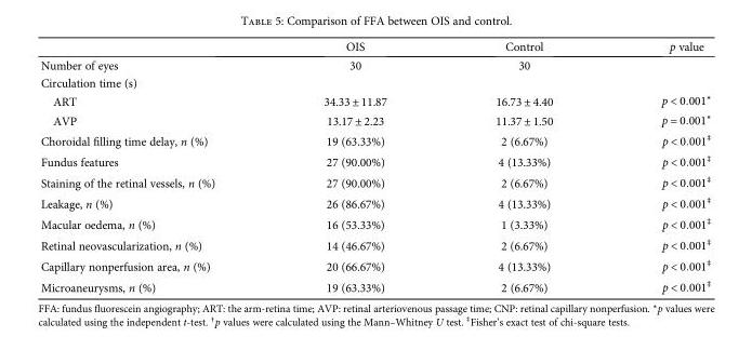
<table><thead><tr><td></td><td>OIS</td><td>Control</td><td>p value</td></tr></thead><tbody><tr><td>Number of eyes</td><td>30</td><td>30</td><td></td></tr><tr><td colspan="4">Circulation time (s)</td></tr><tr><td>ART</td><td>34.33 ± 11.87</td><td>16.73 ± 4.40</td><td>p &lt; 0 001∗</td></tr><tr><td>AVP</td><td>13.17 ± 2.23</td><td>11.37 ± 1.50</td><td>p = 0 001∗</td></tr><tr><td>Choroidal filling time delay, n (%)</td><td>19 (63.33%)</td><td>2 (6.67%)</td><td>p &lt; 0 001‡</td></tr><tr><td>Fundus features</td><td>27 (90.00%)</td><td>4 (13.33%)</td><td>p &lt; 0 001‡</td></tr><tr><td>Staining of the retinal vessels, n (%)</td><td>27 (90.00%)</td><td>2 (6.67%)</td><td>p &lt; 0 001‡</td></tr><tr><td>Leakage, n (%)</td><td>26 (86.67%)</td><td>4 (13.33%)</td><td>p &lt; 0 001‡</td></tr><tr><td>Macular oedema, n (%)</td><td>16 (53.33%)</td><td>1 (3.33%)</td><td>p &lt; 0 001‡</td></tr><tr><td>Retinal neovascularization, n (%)</td><td>14 (46.67%)</td><td>2 (6.67%)</td><td>p &lt; 0 001‡</td></tr><tr><td>Capillary nonperfusion area, n (%)</td><td>20 (66.67%)</td><td>4 (13.33%)</td><td>p &lt; 0 001‡</td></tr><tr><td>Microaneurysms, n (%)</td><td>19 (63.33%)</td><td>2 (6.67%)</td><td>p &lt; 0 001‡</td></tr></tbody></table>